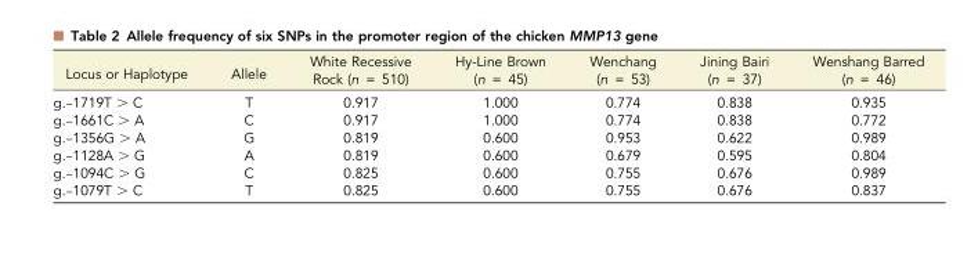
<table><thead><tr><td>Locus or Haplotype</td><td>Allele</td><td>White Recessive Rock (n = 510)</td><td>Hy-Line Brown (n = 45)</td><td>Wenchang (n = 53)</td><td>Jining Bairi (n = 37)</td><td>Wenshang Barred (n = 46)</td></tr></thead><tbody><tr><td>g.–1719T &gt; C</td><td>T</td><td>0.917</td><td>1.000</td><td>0.774</td><td>0.838</td><td>0.935</td></tr><tr><td>g.–1661C &gt; A</td><td>C</td><td>0.917</td><td>1.000</td><td>0.774</td><td>0.838</td><td>0.772</td></tr><tr><td>g.–1356G &gt; A</td><td>G</td><td>0.819</td><td>0.600</td><td>0.953</td><td>0.622</td><td>0.989</td></tr><tr><td>g.–1128A &gt; G</td><td>A</td><td>0.819</td><td>0.600</td><td>0.679</td><td>0.595</td><td>0.804</td></tr><tr><td>g.–1094C &gt; G</td><td>C</td><td>0.825</td><td>0.600</td><td>0.755</td><td>0.676</td><td>0.989</td></tr><tr><td>g.–1079T &gt; C</td><td>T</td><td>0.825</td><td>0.600</td><td>0.755</td><td>0.676</td><td>0.837</td></tr></tbody></table>